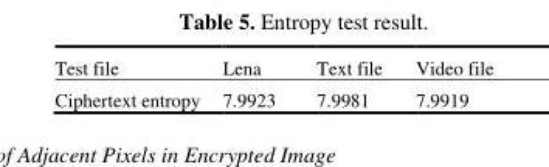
<table><thead><tr><td>Test file</td><td>Lena</td><td>Text file</td><td>Video file</td></tr></thead><tbody><tr><td>Ciphertext entropy</td><td>7.9923</td><td>7.9981</td><td>7.9919</td></tr></tbody></table>